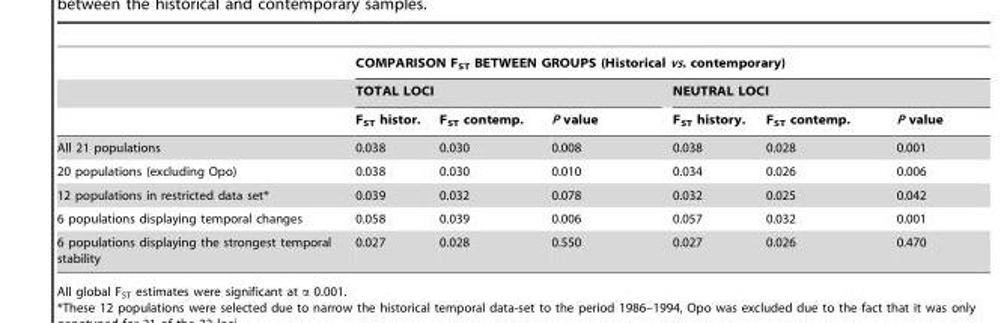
<table><thead><tr><td rowspan="3"></td><td colspan="6">COMPARISON F<sub>ST</sub> BETWEEN GROUPS (Historical vs. contemporary)</td></tr><tr><td colspan="3">TOTAL LOCI</td><td colspan="3">NEUTRAL LOCI</td></tr><tr><td>F<sub>ST</sub> histor.</td><td>F<sub>ST</sub> contemp.</td><td>P value</td><td>F<sub>ST</sub> history.</td><td>F<sub>ST</sub> contemp.</td><td>P value</td></tr></thead><tbody><tr><td>All 21 populations</td><td>0.038</td><td>0.030</td><td>0.008</td><td>0.038</td><td>0.028</td><td>0.001</td></tr><tr><td>20 populations (excluding Opo)</td><td>0.038</td><td>0.030</td><td>0.010</td><td>0.034</td><td>0.026</td><td>0.006</td></tr><tr><td>12 populations in restricted data set*</td><td>0.039</td><td>0.032</td><td>0.078</td><td>0.032</td><td>0.025</td><td>0.042</td></tr><tr><td>6 populations displaying temporal changes</td><td>0.058</td><td>0.039</td><td>0.006</td><td>0.057</td><td>0.032</td><td>0.001</td></tr><tr><td>6 populations displaying the strongest temporal stability</td><td>0.027</td><td>0.028</td><td>0.550</td><td>0.027</td><td>0.026</td><td>0.470</td></tr></tbody></table>